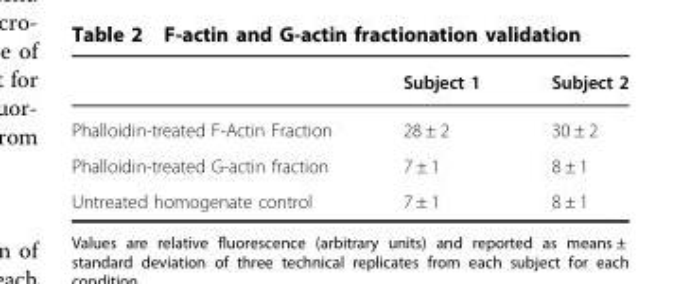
<table><thead><tr><td></td><td>Subject 1</td><td>Subject 2</td></tr></thead><tbody><tr><td>Phalloidin-treated F-Actin Fraction</td><td>28 ± 2</td><td>30 ± 2</td></tr><tr><td>Phalloidin-treated G-actin fraction</td><td>7 ± 1</td><td>8 ± 1</td></tr><tr><td>Untreated homogenate control</td><td>7 ± 1</td><td>8 ± 1</td></tr></tbody></table>